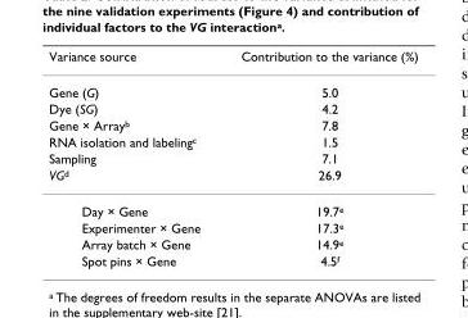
<table><thead><tr><td>Variance source</td><td>Contribution to the variance (%)</td></tr></thead><tbody><tr><td>Gene (G)</td><td>5.0</td></tr><tr><td>Dye (SG)</td><td>4.2</td></tr><tr><td>Gene × Array<sup>b</sup></td><td>7.8</td></tr><tr><td>RNA isolation and labeling<sup>c</sup></td><td>1.5</td></tr><tr><td>Sampling</td><td>7.1</td></tr><tr><td>VG<sup>d</sup></td><td>26.9</td></tr><tr><td>Day × Gene</td><td>19.7<sup>e</sup></td></tr><tr><td>Experimenter × Gene</td><td>17.3<sup>e</sup></td></tr><tr><td>Array batch × Gene</td><td>14.9<sup>e</sup></td></tr><tr><td>Spot pins × Gene</td><td>4.5<sup>f</sup></td></tr></tbody></table>